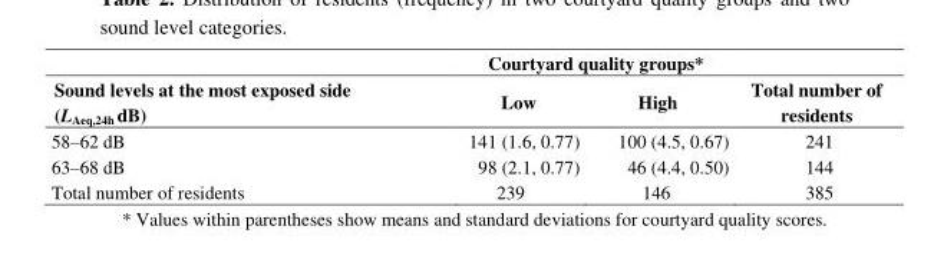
<table><thead><tr><td rowspan="2">Sound levels at the most exposed side (L<sub>Aeq,24h</sub> dB)</td><td colspan="2">Courtyard quality groups*</td><td rowspan="2">Total number of residents</td></tr><tr><td>Low</td><td>High</td></tr></thead><tbody><tr><td>58–62 dB</td><td>141 (1.6, 0.77)</td><td>100 (4.5, 0.67)</td><td>241</td></tr><tr><td>63–68 dB</td><td>98 (2.1, 0.77)</td><td>46 (4.4, 0.50)</td><td>144</td></tr><tr><td>Total number of residents</td><td>239</td><td>146</td><td>385</td></tr></tbody></table>